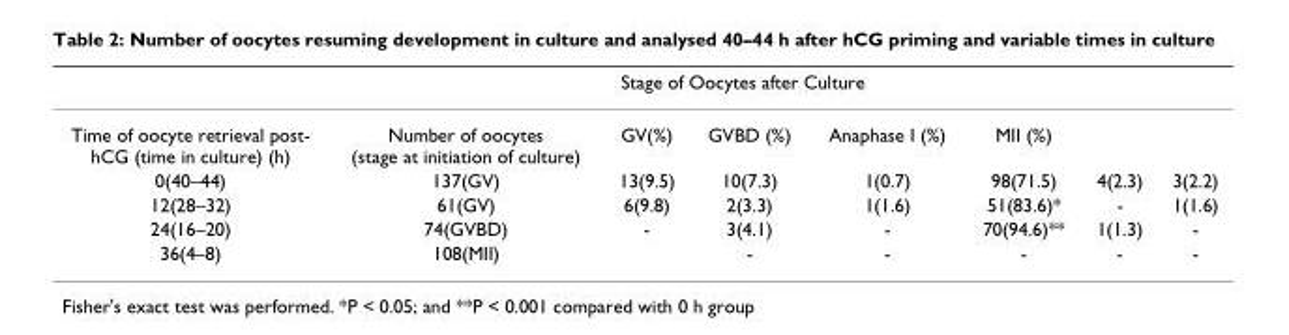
<table><thead><tr><td rowspan="2">Time of oocyte retrieval post- hCG (time in culture) (h)</td><td colspan="6">Stage of Oocytes after Culture</td><td rowspan="2"></td></tr><tr><td>Number of oocytes (stage at initiation of culture)</td><td>GV(%)</td><td>GVBD (%)</td><td>Anaphase I (%)</td><td>MII (%)</td><td></td></tr></thead><tbody><tr><td>0(40–44)</td><td>137(GV)</td><td>13(9.5)</td><td>10(7.3)</td><td>1(0.7)</td><td>98(71.5)</td><td>4(2.3)</td><td>3(2.2)</td></tr><tr><td>12(28–32)</td><td>61(GV)</td><td>6(9.8)</td><td>2(3.3)</td><td>1(1.6)</td><td>51(83.6)*</td><td>-</td><td>1(1.6)</td></tr><tr><td>24(16–20)</td><td>74(GVBD)</td><td>-</td><td>3(4.1)</td><td>-</td><td>70(94.6)**</td><td>1(1.3)</td><td>-</td></tr><tr><td>36(4–8)</td><td>108(MII)</td><td></td><td>-</td><td>-</td><td>-</td><td>-</td><td>-</td></tr></tbody></table>